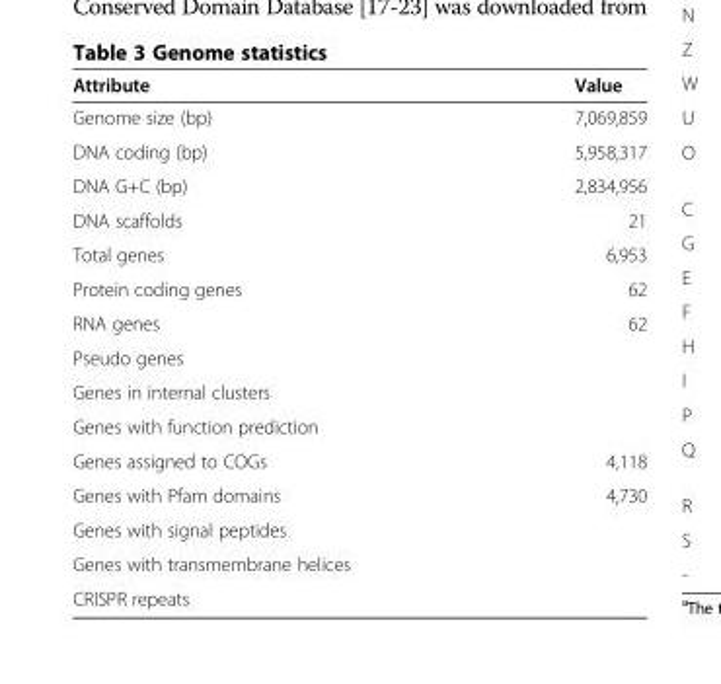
<table><thead><tr><td>Attribute</td><td>Value</td></tr></thead><tbody><tr><td>Genome size (bp)</td><td>7,069,859</td></tr><tr><td>DNA coding (bp)</td><td>5,958,317</td></tr><tr><td>DNA G+C (bp)</td><td>2,834,956</td></tr><tr><td>DNA scaffolds</td><td>21</td></tr><tr><td>Total genes</td><td>6,953</td></tr><tr><td>Protein coding genes</td><td>62</td></tr><tr><td>RNA genes</td><td>62</td></tr><tr><td colspan="2">Pseudo genes</td></tr><tr><td colspan="2">Genes in internal clusters</td></tr><tr><td colspan="2">Genes with function prediction</td></tr><tr><td>Genes assigned to COGs</td><td>4,118</td></tr><tr><td>Genes with Pfam domains</td><td>4,730</td></tr><tr><td colspan="2">Genes with signal peptides</td></tr><tr><td colspan="2">Genes with transmembrane helices</td></tr><tr><td>CRISPR repeats</td><td></td></tr></tbody></table>